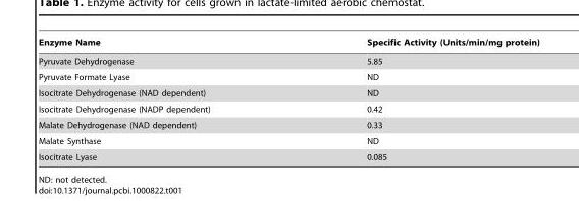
<table><thead><tr><td>Enzyme Name</td><td>Specific Activity (Units/min/mg protein)</td></tr></thead><tbody><tr><td>Pyruvate Dehydrogenase</td><td>5.85</td></tr><tr><td>Pyruvate Formate Lyase</td><td>ND</td></tr><tr><td>Isocitrate Dehydrogenase (NAD dependent)</td><td>ND</td></tr><tr><td>Isocitrate Dehydrogenase (NADP dependent)</td><td>0.42</td></tr><tr><td>Malate Dehydrogenase (NAD dependent)</td><td>0.33</td></tr><tr><td>Malate Synthase</td><td>ND</td></tr><tr><td>Isocitrate Lyase</td><td>0.085</td></tr></tbody></table>